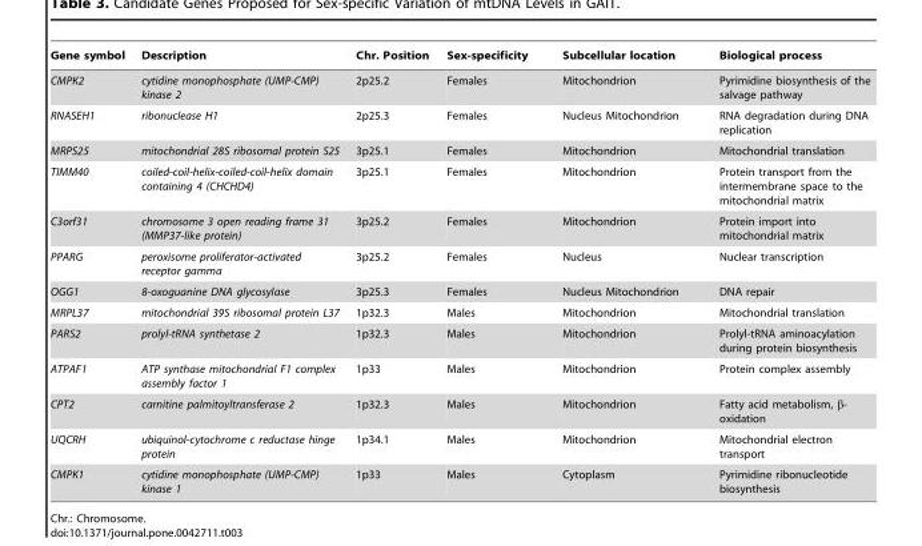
<table><thead><tr><td>Gene symbol</td><td>Description</td><td>Chr. Position</td><td>Sex-specificity</td><td>Subcellular location</td><td>Biological process</td></tr></thead><tbody><tr><td>CMPK2</td><td>cytidine monophosphate (UMP-CMP) kinase 2</td><td>2p25.2</td><td>Females</td><td>Mitochondrion</td><td>Pyrimidine biosynthesis of the salvage pathway</td></tr><tr><td>RNASEH1</td><td>ribonuclease H1</td><td>2p25.3</td><td>Females</td><td>Nucleus Mitochondrion</td><td>RNA degradation during DNA replication</td></tr><tr><td>MRPS25</td><td>mitochondrial 28S ribosomal protein S25</td><td>3p25.1</td><td>Females</td><td>Mitochondrion</td><td>Mitochondrial translation</td></tr><tr><td>TIMM40</td><td>coiled-coil-helix-coiled-coil-helix domain containing 4 (CHCHD4)</td><td>3p25.1</td><td>Females</td><td>Mitochondrion</td><td>Protein transport from the intermembrane space to the mitochondrial matrix</td></tr><tr><td>C3orf31</td><td>chromosome 3 open reading frame 31 (MMP37-like protein)</td><td>3p25.2</td><td>Females</td><td>Mitochondrion</td><td>Protein import into mitochondrial matrix</td></tr><tr><td>PPARG</td><td>peroxisome proliferator-activated receptor gamma</td><td>3p25.2</td><td>Females</td><td>Nucleus</td><td>Nuclear transcription</td></tr><tr><td>OGG1</td><td>8-oxoguanine DNA glycosylase</td><td>3p25.3</td><td>Females</td><td>Nucleus Mitochondrion</td><td>DNA repair</td></tr><tr><td>MRPL37</td><td>mitochondrial 39S ribosomal protein L37</td><td>1p32.3</td><td>Males</td><td>Mitochondrion</td><td>Mitochondrial translation</td></tr><tr><td>PARS2</td><td>prolyl-tRNA synthetase 2</td><td>1p32.3</td><td>Males</td><td>Mitochondrion</td><td>Prolyl-tRNA aminoacylation during protein biosynthesis</td></tr><tr><td>ATPAF1</td><td>ATP synthase mitochondrial F1 complex assembly factor 1</td><td>1p33</td><td>Males</td><td>Mitochondrion</td><td>Protein complex assembly</td></tr><tr><td>CPT2</td><td>carnitine palmitoyltransferase 2</td><td>1p32.3</td><td>Males</td><td>Mitochondrion</td><td>Fatty acid metabolism, β- oxidation</td></tr><tr><td>UQCRH</td><td>ubiquinol-cytochrome c reductase hinge protein</td><td>1p34.1</td><td>Males</td><td>Mitochondrion</td><td>Mitochondrial electron transport</td></tr><tr><td>CMPK1</td><td>cytidine monophosphate (UMP-CMP) kinase 1</td><td>1p33</td><td>Males</td><td>Cytoplasm</td><td>Pyrimidine ribonucleotide biosynthesis</td></tr></tbody></table>